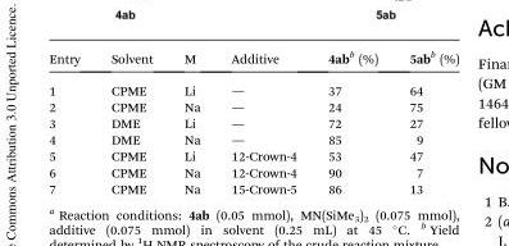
<table><thead><tr><td>Entry</td><td>Solvent</td><td>M</td><td>Additive</td><td>4ab<sup>b</sup> (%)</td><td>5ab<sup>b</sup> (%)</td></tr></thead><tbody><tr><td>1</td><td>CPME</td><td>Li</td><td>—</td><td>37</td><td>64</td></tr><tr><td>2</td><td>CPME</td><td>Na</td><td>—</td><td>24</td><td>75</td></tr><tr><td>3</td><td>DME</td><td>Li</td><td>—</td><td>72</td><td>27</td></tr><tr><td>4</td><td>DME</td><td>Na</td><td>—</td><td>85</td><td>9</td></tr><tr><td>5</td><td>CPME</td><td>Li</td><td>12-Crown-4</td><td>53</td><td>47</td></tr><tr><td>6</td><td>CPME</td><td>Na</td><td>12-Crown-4</td><td>90</td><td>7</td></tr><tr><td>7</td><td>CPME</td><td>Na</td><td>15-Crown-5</td><td>86</td><td>13</td></tr></tbody></table>